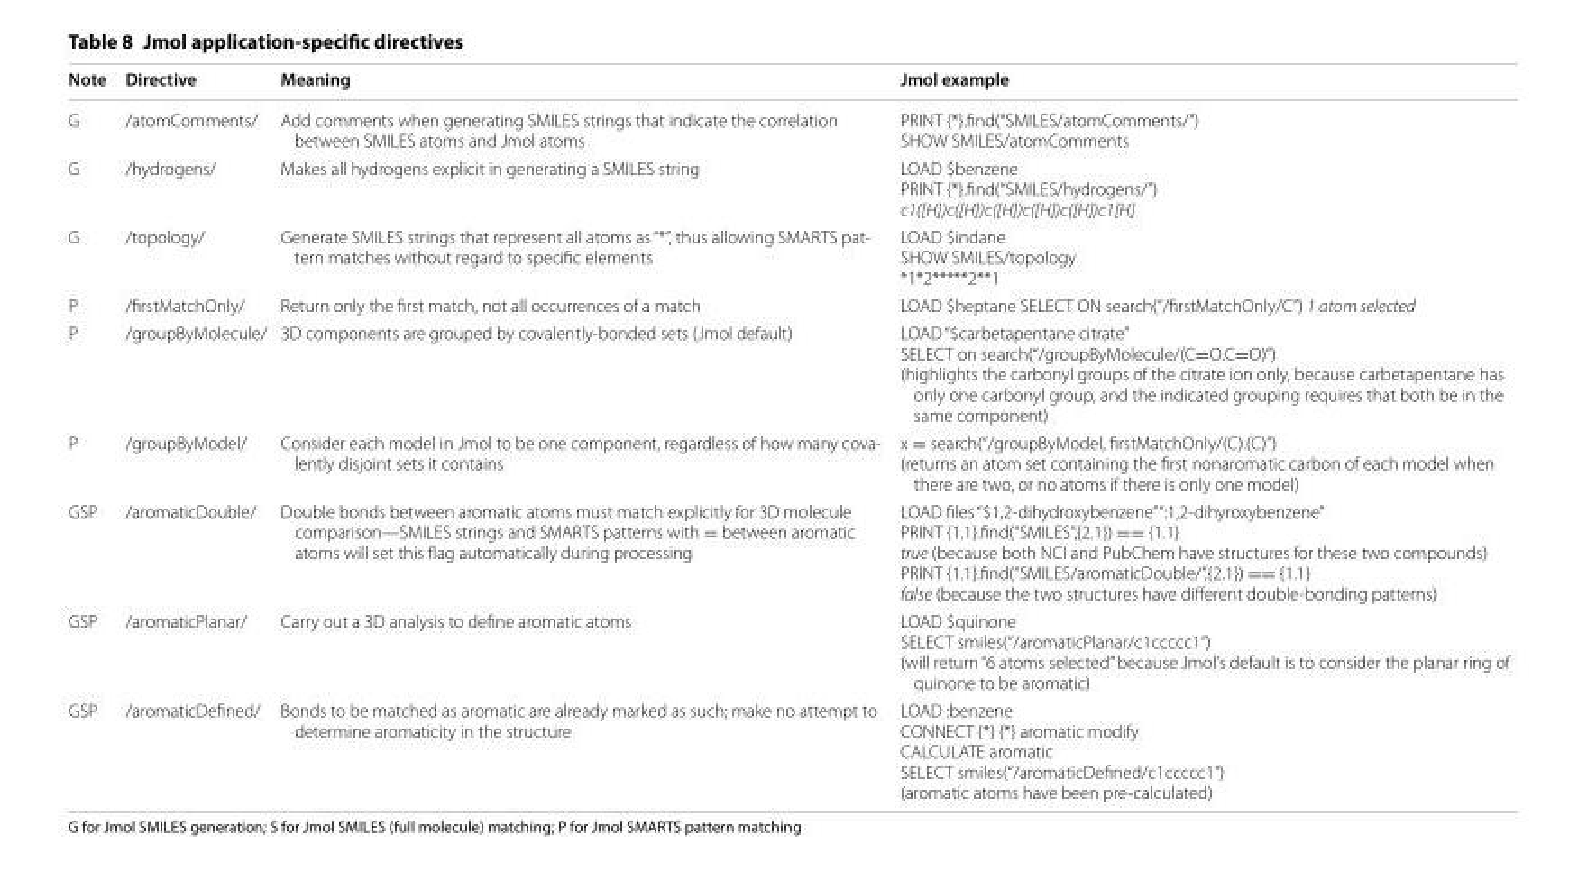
<table><thead><tr><td>Note</td><td>Directive</td><td>Meaning</td><td>Jmol example</td></tr></thead><tbody><tr><td>G</td><td>/atomComments/</td><td>Add comments when generating SMILES strings that indicate the correlation between SMILES atoms and Jmol atoms</td><td>PRINT {*}.find(“SMILES/atomComments/”) SHOW SMILES/atomComments</td></tr><tr><td>G</td><td>/hydrogens/</td><td>Makes all hydrogens explicit in generating a SMILES string</td><td>LOAD $benzene PRINT {*}.find(“SMILES/hydrogens/”) c1([H])c([H])c([H])c([H])c([H])c1[H]</td></tr><tr><td>G</td><td>/topology/</td><td>Generate SMILES strings that represent all atoms as “*”, thus allowing SMARTS pat- tern matches without regard to specific elements</td><td>LOAD $indane SHOW SMILES/topology *1*2*****2**1</td></tr><tr><td>P</td><td>/firstMatchOnly/</td><td>Return only the first match, not all occurrences of a match</td><td>LOAD $heptane SELECT ON search(“/firstMatchOnly/C”) 1 atom selected</td></tr><tr><td>P</td><td>/groupByMolecule/</td><td>3D components are grouped by covalently-bonded sets (Jmol default)</td><td>LOAD “$carbetapentane citrate” SELECT on search(“/groupByMolecule/(C=O.C=O)”) (highlights the carbonyl groups of the citrate ion only, because carbetapentane has only one carbonyl group, and the indicated grouping requires that both be in the same component)</td></tr><tr><td>P</td><td>/groupByModel/</td><td>Consider each model in Jmol to be one component, regardless of how many cova- lently disjoint sets it contains</td><td>x = search(“/groupByModel, firstMatchOnly/(C).(C)”) (returns an atom set containing the first nonaromatic carbon of each model when there are two, or no atoms if there is only one model)</td></tr><tr><td>GSP</td><td>/aromaticDouble/</td><td>Double bonds between aromatic atoms must match explicitly for 3D molecule comparison—SMILES strings and SMARTS patterns with = between aromatic atoms will set this flag automatically during processing</td><td>LOAD files “$1,2-dihydroxybenzene” “:1,2-dihyroxybenzene” PRINT {1.1}.find(“SMILES”,{2.1}) == {1.1} true (because both NCI and PubChem have structures for these two compounds) PRINT {1.1}.find(“SMILES/aromaticDouble/”,{2.1}) == {1.1} false (because the two structures have different double-bonding patterns)</td></tr><tr><td>GSP</td><td>/aromaticPlanar/</td><td>Carry out a 3D analysis to define aromatic atoms</td><td>LOAD $quinone SELECT smiles(“/aromaticPlanar/c1ccccc1”) (will return “6 atoms selected” because Jmol’s default is to consider the planar ring of quinone to be aromatic)</td></tr><tr><td>GSP</td><td>/aromaticDefined/</td><td>Bonds to be matched as aromatic are already marked as such; make no attempt to determine aromaticity in the structure</td><td>LOAD :benzene CONNECT {*} {*} aromatic modify CALCULATE aromatic SELECT smiles(“/aromaticDefined/c1ccccc1”) (aromatic atoms have been pre-calculated)</td></tr></tbody></table>